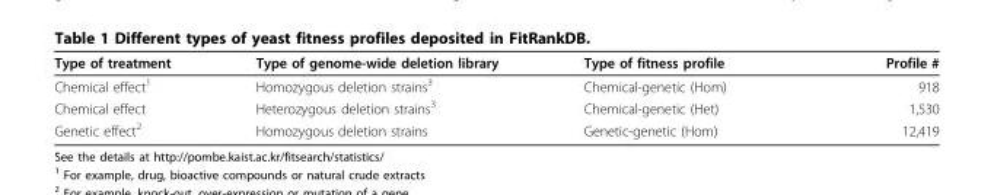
<table><thead><tr><td>Type of treatment</td><td>Type of genome-wide deletion library</td><td>Type of fitness profile</td><td>Profile #</td></tr></thead><tbody><tr><td>Chemical effect<sup>1</sup></td><td>Homozygous deletion strains<sup>3</sup></td><td>Chemical-genetic (Hom)</td><td>918</td></tr><tr><td>Chemical effect</td><td>Heterozygous deletion strains<sup>3</sup></td><td>Chemical-genetic (Het)</td><td>1,530</td></tr><tr><td>Genetic effect<sup>2</sup></td><td>Homozygous deletion strains</td><td>Genetic-genetic (Hom)</td><td>12,419</td></tr></tbody></table>